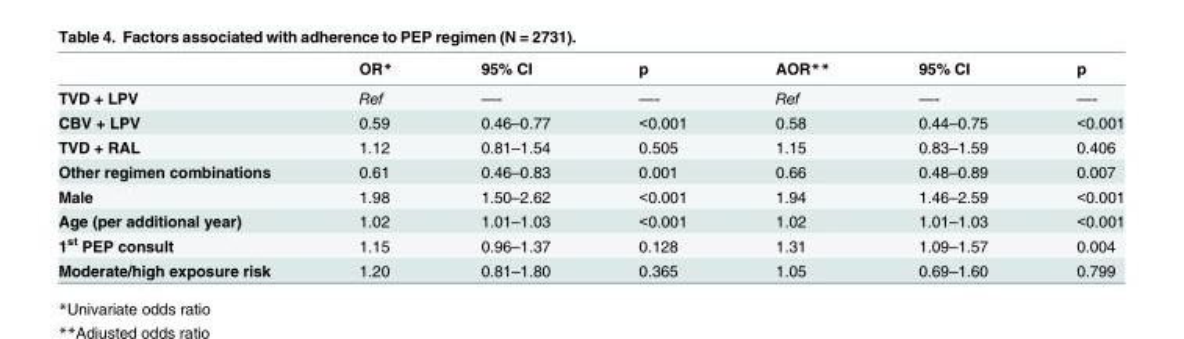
<table><thead><tr><td></td><td>OR*</td><td>95% CI</td><td>p</td><td>AOR**</td><td>95% CI</td><td>p</td></tr></thead><tbody><tr><td>TVD + LPV</td><td>Ref</td><td>—-</td><td>—-</td><td>Ref</td><td>—-</td><td>—-</td></tr><tr><td>CBV + LPV</td><td>0.59</td><td>0.46–0.77</td><td>&lt;0.001</td><td>0.58</td><td>0.44–0.75</td><td>&lt;0.001</td></tr><tr><td>TVD + RAL</td><td>1.12</td><td>0.81–1.54</td><td>0.505</td><td>1.15</td><td>0.83–1.59</td><td>0.406</td></tr><tr><td>Other regimen combinations</td><td>0.61</td><td>0.46–0.83</td><td>0.001</td><td>0.66</td><td>0.48–0.89</td><td>0.007</td></tr><tr><td>Male</td><td>1.98</td><td>1.50–2.62</td><td>&lt;0.001</td><td>1.94</td><td>1.46–2.59</td><td>&lt;0.001</td></tr><tr><td>Age (per additional year)</td><td>1.02</td><td>1.01–1.03</td><td>&lt;0.001</td><td>1.02</td><td>1.01–1.03</td><td>&lt;0.001</td></tr><tr><td>1<sup>st</sup> PEP consult</td><td>1.15</td><td>0.96–1.37</td><td>0.128</td><td>1.31</td><td>1.09–1.57</td><td>0.004</td></tr><tr><td>Moderate/high exposure risk</td><td>1.20</td><td>0.81–1.80</td><td>0.365</td><td>1.05</td><td>0.69–1.60</td><td>0.799</td></tr></tbody></table>